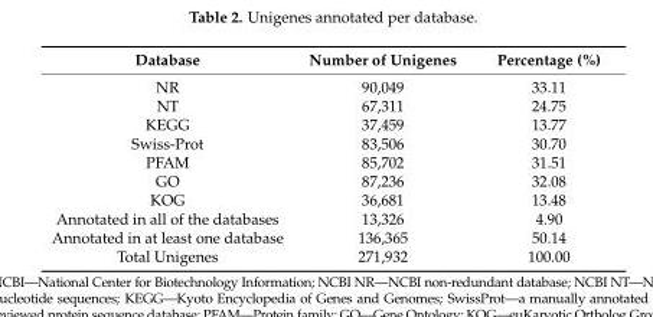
<table><thead><tr><td>Database</td><td>Number of Unigenes</td><td>Percentage (%)</td></tr></thead><tbody><tr><td>NR</td><td>90,049</td><td>33.11</td></tr><tr><td>NT</td><td>67,311</td><td>24.75</td></tr><tr><td>KEGG</td><td>37,459</td><td>13.77</td></tr><tr><td>Swiss-Prot</td><td>83,506</td><td>30.70</td></tr><tr><td>PFAM</td><td>85,702</td><td>31.51</td></tr><tr><td>GO</td><td>87,236</td><td>32.08</td></tr><tr><td>KOG</td><td>36,681</td><td>13.48</td></tr><tr><td>Annotated in all of the databases</td><td>13,326</td><td>4.90</td></tr><tr><td>Annotated in at least one database</td><td>136,365</td><td>50.14</td></tr><tr><td>Total Unigenes</td><td>271,932</td><td>100.00</td></tr></tbody></table>